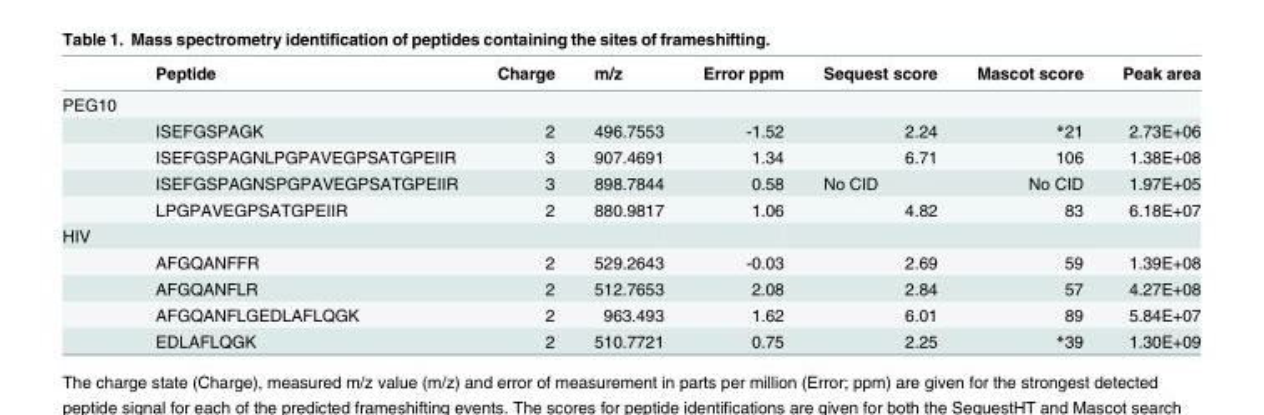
<table><thead><tr><td></td><td>Peptide</td><td>Charge</td><td>m/z</td><td>Error ppm</td><td>Sequest score</td><td>Mascot score</td><td>Peak area</td></tr></thead><tbody><tr><td colspan="8">PEG10</td></tr><tr><td></td><td>ISEFGSPAGK</td><td>2</td><td>496.7553</td><td>-1.52</td><td>2.24</td><td>*21</td><td>2.73E+06</td></tr><tr><td></td><td>ISEFGSPAGNLPGPAVEGPSATGPEIIR</td><td>3</td><td>907.4691</td><td>1.34</td><td>6.71</td><td>106</td><td>1.38E+08</td></tr><tr><td></td><td>ISEFGSPAGNSPGPAVEGPSATGPEIIR</td><td>3</td><td>898.7844</td><td>0.58</td><td>No CID</td><td>No CID</td><td>1.97E+05</td></tr><tr><td></td><td>LPGPAVEGPSATGPEIIR</td><td>2</td><td>880.9817</td><td>1.06</td><td>4.82</td><td>83</td><td>6.18E+07</td></tr><tr><td colspan="8">HIV</td></tr><tr><td></td><td>AFGQANFFR</td><td>2</td><td>529.2643</td><td>-0.03</td><td>2.69</td><td>59</td><td>1.39E+08</td></tr><tr><td></td><td>AFGQANFLR</td><td>2</td><td>512.7653</td><td>2.08</td><td>2.84</td><td>57</td><td>4.27E+08</td></tr><tr><td></td><td>AFGQANFLGEDLAFLQGK</td><td>2</td><td>963.493</td><td>1.62</td><td>6.01</td><td>89</td><td>5.84E+07</td></tr><tr><td></td><td>EDLAFLQGK</td><td>2</td><td>510.7721</td><td>0.75</td><td>2.25</td><td>*39</td><td>1.30E+09</td></tr></tbody></table>